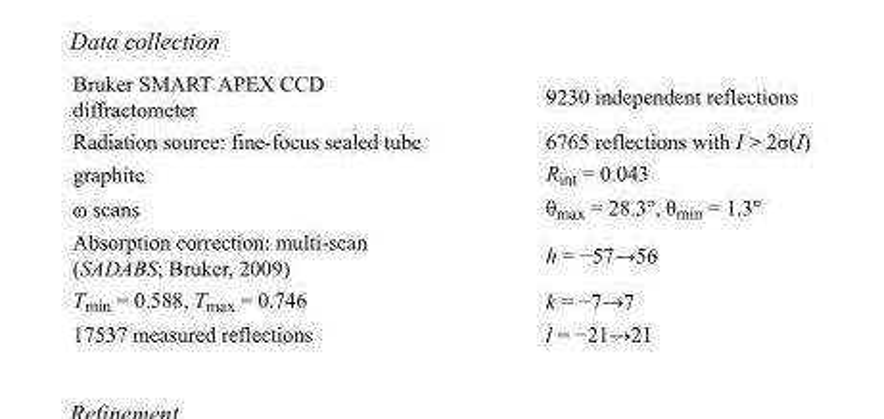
<table><tbody><tr><td>Bruker SMART APEX CCD diffractometer</td><td>9230 independent reflections</td></tr><tr><td>Radiation source: fine-focus sealed tube</td><td>6765 reflections with I &gt; 2σ(I)</td></tr><tr><td>graphite</td><td>R<sub>int</sub> = 0.043</td></tr><tr><td>ω scans</td><td>θ<sub>max</sub> = 28.3°, θ<sub>min</sub> = 1.3°</td></tr><tr><td>Absorption correction: multi-scan (SADABS; Bruker, 2009)</td><td>h = −57→56</td></tr><tr><td>T<sub>min</sub> = 0.588, T<sub>max</sub> = 0.746</td><td>k = −7→7</td></tr><tr><td>17537 measured reflections</td><td>l = −21→21</td></tr></tbody></table>